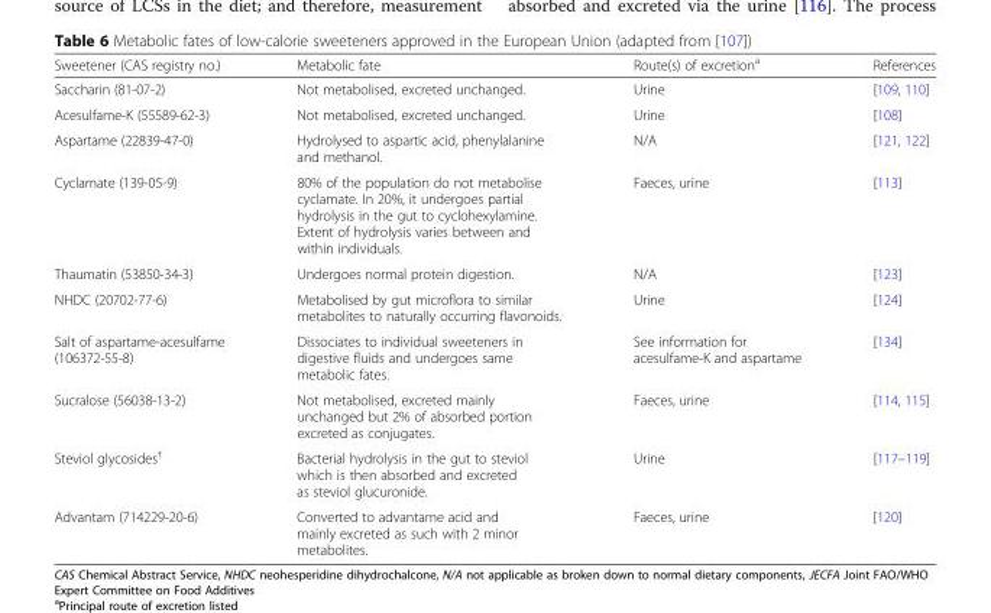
<table><thead><tr><td>Sweetener (CAS registry no.)</td><td>Metabolic fate</td><td>Route(s) of excretion<sup>a</sup></td><td>References</td></tr></thead><tbody><tr><td>Saccharin (81-07-2)</td><td>Not metabolised, excreted unchanged.</td><td>Urine</td><td>[109, 110]</td></tr><tr><td>Acesulfame-K (55589-62-3)</td><td>Not metabolised, excreted unchanged.</td><td>Urine</td><td>[108]</td></tr><tr><td>Aspartame (22839-47-0)</td><td>Hydrolysed to aspartic acid, phenylalanine and methanol.</td><td>N/A</td><td>[121, 122]</td></tr><tr><td>Cyclamate (139-05-9)</td><td>80% of the population do not metabolise cyclamate. In 20%, it undergoes partial hydrolysis in the gut to cyclohexylamine. Extent of hydrolysis varies between and within individuals.</td><td>Faeces, urine</td><td>[113]</td></tr><tr><td>Thaumatin (53850-34-3)</td><td>Undergoes normal protein digestion.</td><td>N/A</td><td>[123]</td></tr><tr><td>NHDC (20702-77-6)</td><td>Metabolised by gut microflora to similar metabolites to naturally occurring flavonoids.</td><td>Urine</td><td>[124]</td></tr><tr><td>Salt of aspartame-acesulfame (106372-55-8)</td><td>Dissociates to individual sweeteners in digestive fluids and undergoes same metabolic fates.</td><td>See information for acesulfame-K and aspartame</td><td>[134]</td></tr><tr><td>Sucralose (56038-13-2)</td><td>Not metabolised, excreted mainly unchanged but 2% of absorbed portion excreted as conjugates.</td><td>Faeces, urine</td><td>[114, 115]</td></tr><tr><td>Steviol glycosides<sup>†</sup></td><td>Bacterial hydrolysis in the gut to steviol which is then absorbed and excreted as steviol glucuronide.</td><td>Urine</td><td>[117–119]</td></tr><tr><td>Advantam (714229-20-6)</td><td>Converted to advantame acid and mainly excreted as such with 2 minor metabolites.</td><td>Faeces, urine</td><td>[120]</td></tr></tbody></table>